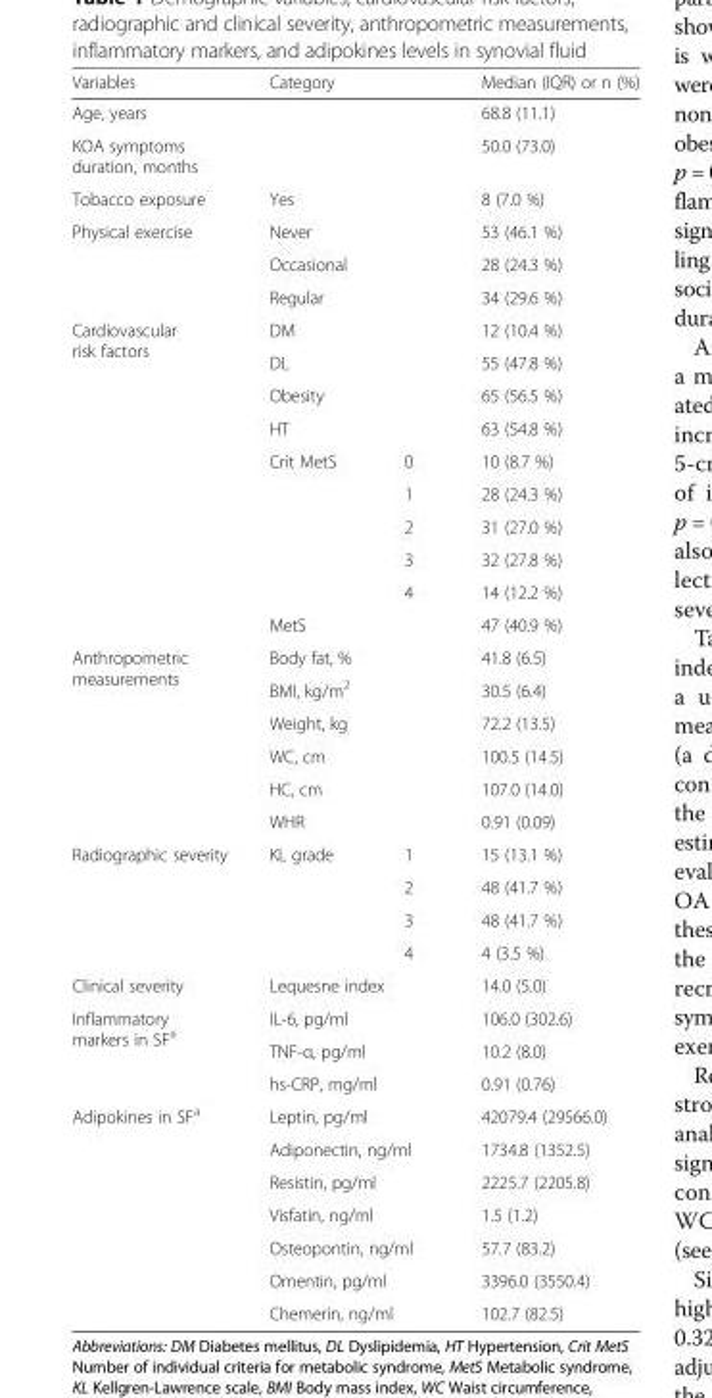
<table><thead><tr><td>Variables</td><td colspan="2">Category</td><td>Median (IQR) or n (%)</td></tr></thead><tbody><tr><td>Age, years</td><td colspan="2"></td><td>68.8 (11.1)</td></tr><tr><td>KOA symptoms duration, months</td><td colspan="2"></td><td>50.0 (73.0)</td></tr><tr><td>Tobacco exposure</td><td colspan="2">Yes</td><td>8 (7.0 %)</td></tr><tr><td rowspan="3">Physical exercise</td><td colspan="2">Never</td><td>53 (46.1 %)</td></tr><tr><td colspan="2">Occasional</td><td>28 (24.3 %)</td></tr><tr><td colspan="2">Regular</td><td>34 (29.6 %)</td></tr><tr><td rowspan="10">Cardiovascular risk factors</td><td colspan="2">DM</td><td>12 (10.4 %)</td></tr><tr><td colspan="2">DL</td><td>55 (47.8 %)</td></tr><tr><td colspan="2">Obesity</td><td>65 (56.5 %)</td></tr><tr><td colspan="2">HT</td><td>63 (54.8 %)</td></tr><tr><td rowspan="5">Crit MetS</td><td>0</td><td>10 (8.7 %)</td></tr><tr><td>1</td><td>28 (24.3 %)</td></tr><tr><td>2</td><td>31 (27.0 %)</td></tr><tr><td>3</td><td>32 (27.8 %)</td></tr><tr><td>4</td><td>14 (12.2 %)</td></tr><tr><td colspan="2">MetS</td><td>47 (40.9 %)</td></tr><tr><td rowspan="6">Anthropometric measurements</td><td colspan="2">Body fat, %</td><td>41.8 (6.5)</td></tr><tr><td colspan="2">BMI, kg/m<sup>2</sup></td><td>30.5 (6.4)</td></tr><tr><td colspan="2">Weight, kg</td><td>72.2 (13.5)</td></tr><tr><td colspan="2">WC, cm</td><td>100.5 (14.5)</td></tr><tr><td colspan="2">HC, cm</td><td>107.0 (14.0)</td></tr><tr><td colspan="2">WHR</td><td>0.91 (0.09)</td></tr><tr><td rowspan="4">Radiographic severity</td><td rowspan="4">KL grade</td><td>1</td><td>15 (13.1 %)</td></tr><tr><td>2</td><td>48 (41.7 %)</td></tr><tr><td>3</td><td>48 (41.7 %)</td></tr><tr><td>4</td><td>4 (3.5 %)</td></tr><tr><td>Clinical severity</td><td colspan="2">Lequesne index</td><td>14.0 (5.0)</td></tr><tr><td rowspan="3">Inflammatory markers in SF<sup>a</sup></td><td colspan="2">IL-6, pg/ml</td><td>106.0 (302.6)</td></tr><tr><td colspan="2">TNF-α, pg/ml</td><td>10.2 (8.0)</td></tr><tr><td colspan="2">hs-CRP, mg/ml</td><td>0.91 (0.76)</td></tr><tr><td rowspan="7">Adipokines in SF<sup>a</sup></td><td colspan="2">Leptin, pg/ml</td><td>42079.4 (29566.0)</td></tr><tr><td colspan="2">Adiponectin, ng/ml</td><td>1734.8 (1352.5)</td></tr><tr><td colspan="2">Resistin, pg/ml</td><td>2225.7 (2205.8)</td></tr><tr><td colspan="2">Visfatin, ng/ml</td><td>1.5 (1.2)</td></tr><tr><td colspan="2">Osteopontin, ng/ml</td><td>57.7 (83.2)</td></tr><tr><td colspan="2">Omentin, pg/ml</td><td>3396.0 (3550.4)</td></tr><tr><td colspan="2">Chemerin, ng/ml</td><td>102.7 (82.5)</td></tr></tbody></table>